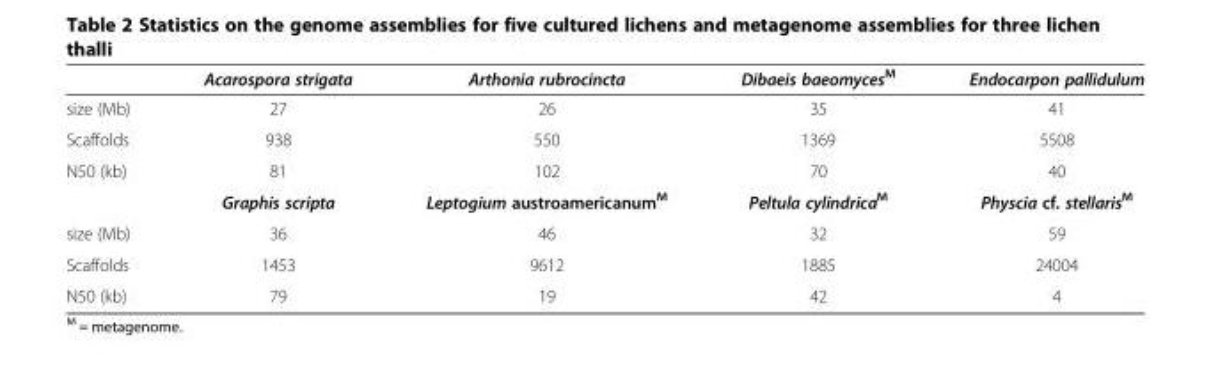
<table><thead><tr><td></td><td>Acarospora strigata</td><td>Arthonia rubrocincta</td><td>Dibaeis baeomyces<sup>M</sup></td><td>Endocarpon pallidulum</td></tr></thead><tbody><tr><td>size (Mb)</td><td>27</td><td>26</td><td>35</td><td>41</td></tr><tr><td>Scaffolds</td><td>938</td><td>550</td><td>1369</td><td>5508</td></tr><tr><td rowspan="2">N50 (kb)</td><td>81</td><td>102</td><td>70</td><td>40</td></tr><tr><td>Graphis scripta</td><td>Leptogium austroamericanum<sup>M</sup></td><td>Peltula cylindrica<sup>M</sup></td><td>Physcia cf. stellaris<sup>M</sup></td></tr><tr><td>size (Mb)</td><td>36</td><td>46</td><td>32</td><td>59</td></tr><tr><td>Scaffolds</td><td>1453</td><td>9612</td><td>1885</td><td>24004</td></tr><tr><td>N50 (kb)</td><td>79</td><td>19</td><td>42</td><td>4</td></tr></tbody></table>